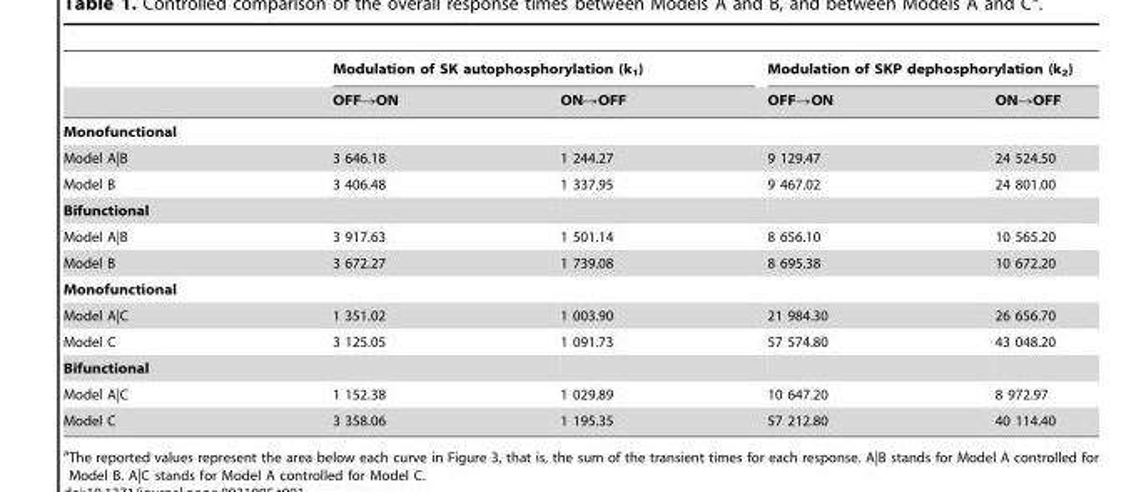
<table><thead><tr><td rowspan="2"></td><td colspan="2">Modulation of SK autophosphorylation (k<sub>1</sub>)</td><td colspan="2">Modulation of SKP dephosphorylation (k<sub>2</sub>)</td></tr><tr><td>OFF→ON</td><td>ON→OFF</td><td>OFF→ON</td><td>ON→OFF</td></tr></thead><tbody><tr><td colspan="5">Monofunctional</td></tr><tr><td>Model A|B</td><td>3 646.18</td><td>1 244.27</td><td>9 129.47</td><td>24 524.50</td></tr><tr><td>Model B</td><td>3 406.48</td><td>1 337.95</td><td>9 467.02</td><td>24 801.00</td></tr><tr><td colspan="5">Bifunctional</td></tr><tr><td>Model A|B</td><td>3 917.63</td><td>1 501.14</td><td>8 656.10</td><td>10 565.20</td></tr><tr><td>Model B</td><td>3 672.27</td><td>1 739.08</td><td>8 695.38</td><td>10 672.20</td></tr><tr><td colspan="5">Monofunctional</td></tr><tr><td>Model A|C</td><td>1 351.02</td><td>1 003.90</td><td>21 984.30</td><td>26 656.70</td></tr><tr><td>Model C</td><td>3 125.05</td><td>1 091.73</td><td>57 574.80</td><td>43 048.20</td></tr><tr><td colspan="5">Bifunctional</td></tr><tr><td>Model A|C</td><td>1 152.38</td><td>1 029.89</td><td>10 647.20</td><td>8 972.97</td></tr><tr><td>Model C</td><td>3 358.06</td><td>1 195.35</td><td>57 212.80</td><td>40 114.40</td></tr></tbody></table>